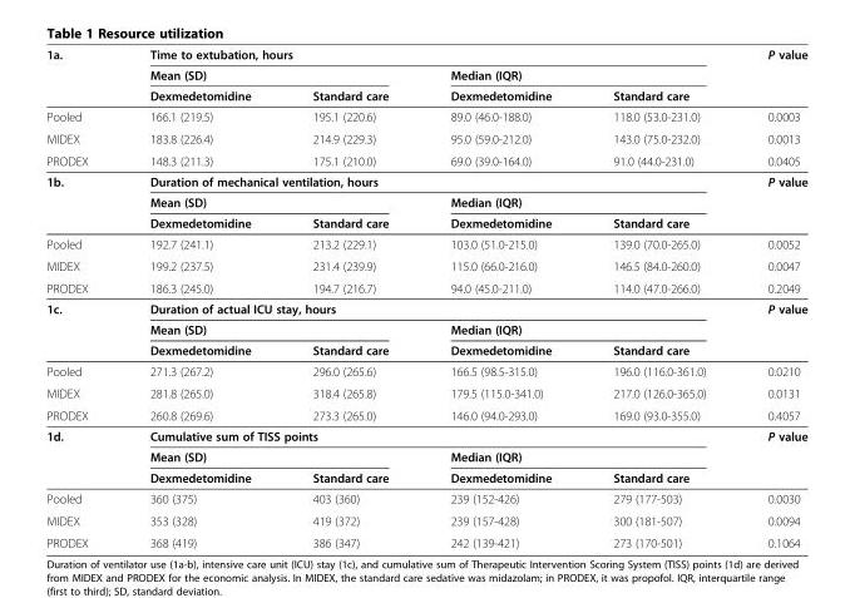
<table><thead><tr><td rowspan="3">1a.</td><td colspan="4">Time to extubation, hours</td><td rowspan="3">P value</td></tr><tr><td colspan="2">Mean (SD)</td><td colspan="2">Median (IQR)</td></tr><tr><td>Dexmedetomidine</td><td>Standard care</td><td>Dexmedetomidine</td><td>Standard care</td></tr></thead><tbody><tr><td>Pooled</td><td>166.1 (219.5)</td><td>195.1 (220.6)</td><td>89.0 (46.0-188.0)</td><td>118.0 (53.0-231.0)</td><td>0.0003</td></tr><tr><td>MIDEX</td><td>183.8 (226.4)</td><td>214.9 (229.3)</td><td>95.0 (59.0-212.0)</td><td>143.0 (75.0-232.0)</td><td>0.0013</td></tr><tr><td>PRODEX</td><td>148.3 (211.3)</td><td>175.1 (210.0)</td><td>69.0 (39.0-164.0)</td><td>91.0 (44.0-231.0)</td><td>0.0405</td></tr><tr><td rowspan="3">1b.</td><td colspan="4">Duration of mechanical ventilation, hours</td><td rowspan="3">P value</td></tr><tr><td colspan="2">Mean (SD)</td><td colspan="2">Median (IQR)</td></tr><tr><td>Dexmedetomidine</td><td>Standard care</td><td>Dexmedetomidine</td><td>Standard care</td></tr><tr><td>Pooled</td><td>192.7 (241.1)</td><td>213.2 (229.1)</td><td>103.0 (51.0-215.0)</td><td>139.0 (70.0-265.0)</td><td>0.0052</td></tr><tr><td>MIDEX</td><td>199.2 (237.5)</td><td>231.4 (239.9)</td><td>115.0 (66.0-216.0)</td><td>146.5 (84.0-260.0)</td><td>0.0047</td></tr><tr><td>PRODEX</td><td>186.3 (245.0)</td><td>194.7 (216.7)</td><td>94.0 (45.0-211.0)</td><td>114.0 (47.0-266.0)</td><td>0.2049</td></tr><tr><td rowspan="3">1c.</td><td colspan="4">Duration of actual ICU stay, hours</td><td rowspan="3">P value</td></tr><tr><td colspan="2">Mean (SD)</td><td colspan="2">Median (IQR)</td></tr><tr><td>Dexmedetomidine</td><td>Standard care</td><td>Dexmedetomidine</td><td>Standard care</td></tr><tr><td>Pooled</td><td>271.3 (267.2)</td><td>296.0 (265.6)</td><td>166.5 (98.5-315.0)</td><td>196.0 (116.0-361.0)</td><td>0.0210</td></tr><tr><td>MIDEX</td><td>281.8 (265.0)</td><td>318.4 (265.8)</td><td>179.5 (115.0-341.0)</td><td>217.0 (126.0-365.0)</td><td>0.0131</td></tr><tr><td>PRODEX</td><td>260.8 (269.6)</td><td>273.3 (265.0)</td><td>146.0 (94.0-293.0)</td><td>169.0 (93.0-355.0)</td><td>0.4057</td></tr><tr><td rowspan="3">1d.</td><td colspan="4">Cumulative sum of TISS points</td><td rowspan="3">P value</td></tr><tr><td colspan="2">Mean (SD)</td><td colspan="2">Median (IQR)</td></tr><tr><td>Dexmedetomidine</td><td>Standard care</td><td>Dexmedetomidine</td><td>Standard care</td></tr><tr><td>Pooled</td><td>360 (375)</td><td>403 (360)</td><td>239 (152-426)</td><td>279 (177-503)</td><td>0.0030</td></tr><tr><td>MIDEX</td><td>353 (328)</td><td>419 (372)</td><td>239 (157-428)</td><td>300 (181-507)</td><td>0.0094</td></tr><tr><td>PRODEX</td><td>368 (419)</td><td>386 (347)</td><td>242 (139-421)</td><td>273 (170-501)</td><td>0.1064</td></tr></tbody></table>